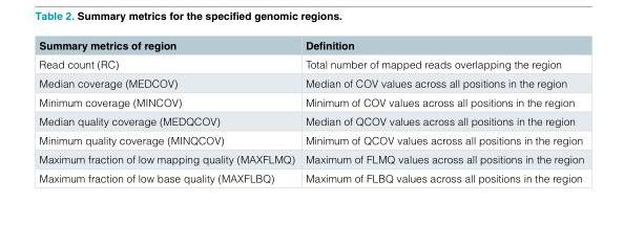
<table><thead><tr><td>Summary metrics of region</td><td>Definition</td></tr></thead><tbody><tr><td>Read count (RC)</td><td>Total number of mapped reads overlapping the region</td></tr><tr><td>Median coverage (MEDCOV)</td><td>Median of COV values across all positions in the region</td></tr><tr><td>Minimum coverage (MINCOV)</td><td>Minimum of COV values across all positions in the region</td></tr><tr><td>Median quality coverage (MEDQCOV)</td><td>Median of QCOV values across all positions in the region</td></tr><tr><td>Minimum quality coverage (MINQCOV)</td><td>Minimum of QCOV values across all positions in the region</td></tr><tr><td>Maximum fraction of low mapping quality (MAXFLMQ)</td><td>Maximum of FLMQ values across all positions in the region</td></tr><tr><td>Maximum fraction of low base quality (MAXFLBQ)</td><td>Maximum of FLBQ values across all positions in the region</td></tr></tbody></table>